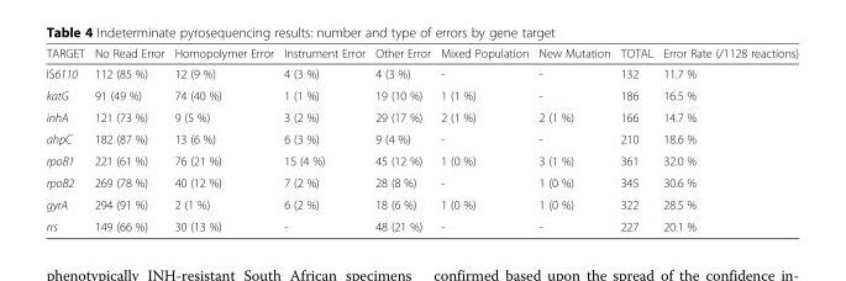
<table><thead><tr><td>TARGET</td><td>No Read Error</td><td>Homopolymer Error</td><td>Instrument Error</td><td>Other Error</td><td>Mixed Population</td><td>New Mutation</td><td>TOTAL</td><td>Error Rate (/1128 reactions)</td></tr></thead><tbody><tr><td>IS6110</td><td>112 (85 %)</td><td>12 (9 %)</td><td>4 (3 %)</td><td>4 (3 %)</td><td>-</td><td>-</td><td>132</td><td>11.7 %</td></tr><tr><td>katG</td><td>91 (49 %)</td><td>74 (40 %)</td><td>1 (1 %)</td><td>19 (10 %)</td><td>1 (1 %)</td><td>-</td><td>186</td><td>16.5 %</td></tr><tr><td>inhA</td><td>121 (73 %)</td><td>9 (5 %)</td><td>3 (2 %)</td><td>29 (17 %)</td><td>2 (1 %)</td><td>2 (1 %)</td><td>166</td><td>14.7 %</td></tr><tr><td>ahpC</td><td>182 (87 %)</td><td>13 (6 %)</td><td>6 (3 %)</td><td>9 (4 %)</td><td>-</td><td>-</td><td>210</td><td>18.6 %</td></tr><tr><td>rpoB1</td><td>221 (61 %)</td><td>76 (21 %)</td><td>15 (4 %)</td><td>45 (12 %)</td><td>1 (0 %)</td><td>3 (1 %)</td><td>361</td><td>32.0 %</td></tr><tr><td>rpoB2</td><td>269 (78 %)</td><td>40 (12 %)</td><td>7 (2 %)</td><td>28 (8 %)</td><td>-</td><td>1 (0 %)</td><td>345</td><td>30.6 %</td></tr><tr><td>gyrA</td><td>294 (91 %)</td><td>2 (1 %)</td><td>6 (2 %)</td><td>18 (6 %)</td><td>1 (0 %)</td><td>1 (0 %)</td><td>322</td><td>28.5 %</td></tr><tr><td>rrs</td><td>149 (66 %)</td><td>30 (13 %)</td><td>-</td><td>48 (21 %)</td><td>-</td><td>-</td><td>227</td><td>20.1 %</td></tr></tbody></table>